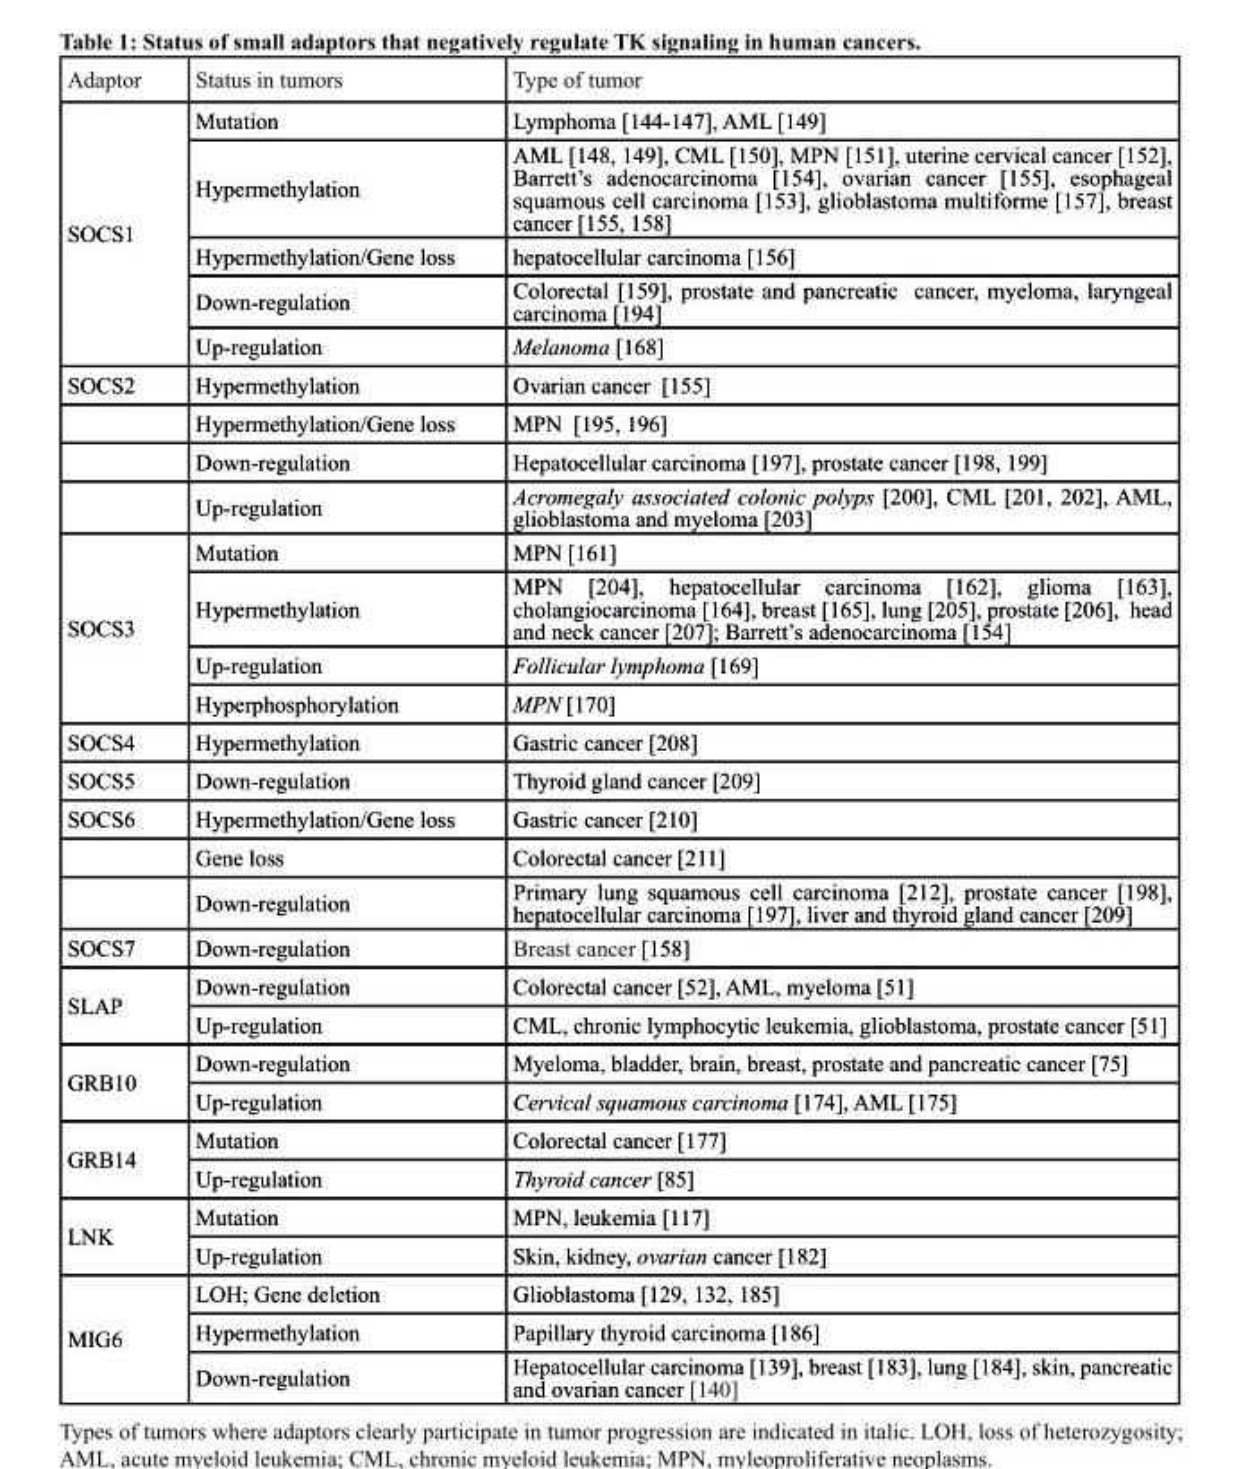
<table><thead><tr><td>Adaptor</td><td>Status in tumors</td><td>Type of tumor</td></tr></thead><tbody><tr><td rowspan="5">SOCS1</td><td>Mutation</td><td>Lymphoma [144-147], AML [149]</td></tr><tr><td>Hypermethylation</td><td>AML [148, 149], CML [150], MPN [151], uterine cervical cancer [152], Barrett’s adenocarcinoma [154], ovarian cancer [155], esophageal squamous cell carcinoma [153], glioblastoma multiforme [157], breast cancer [155, 158]</td></tr><tr><td>Hypermethylation/Gene loss</td><td>hepatocellular carcinoma [156]</td></tr><tr><td>Down-regulation</td><td>Colorectal [159], prostate and pancreatic cancer, myeloma, laryngeal carcinoma [194]</td></tr><tr><td>Up-regulation</td><td>Melanoma [168]</td></tr><tr><td rowspan="4">SOCS2</td><td>Hypermethylation</td><td>Ovarian cancer [155]</td></tr><tr><td>Hypermethylation/Gene loss</td><td>MPN [195, 196]</td></tr><tr><td>Down-regulation</td><td>Hepatocellular carcinoma [197], prostate cancer [198, 199]</td></tr><tr><td>Up-regulation</td><td>Acromegaly associated colonic polyps [200], CML [201, 202], AML, glioblastoma and myeloma [203]</td></tr><tr><td rowspan="4">SOCS3</td><td>Mutation</td><td>MPN [161]</td></tr><tr><td>Hypermethylation</td><td>MPN [204], hepatocellular carcinoma [162], glioma [163], cholangiocarcinoma [164], breast [165], lung [205], prostate [206], head and neck cancer [207]; Barrett’s adenocarcinoma [154]</td></tr><tr><td>Up-regulation</td><td>Follicular lymphoma [169]</td></tr><tr><td>Hyperphosphorylation</td><td>MPN [170]</td></tr><tr><td>SOCS4</td><td>Hypermethylation</td><td>Gastric cancer [208]</td></tr><tr><td>SOCS5</td><td>Down-regulation</td><td>Thyroid gland cancer [209]</td></tr><tr><td rowspan="3">SOCS6</td><td>Hypermethylation/Gene loss</td><td>Gastric cancer [210]</td></tr><tr><td>Gene loss</td><td>Colorectal cancer [211]</td></tr><tr><td>Down-regulation</td><td>Primary lung squamous cell carcinoma [212], prostate cancer [198], hepatocellular carcinoma [197], liver and thyroid gland cancer [209]</td></tr><tr><td>SOCS7</td><td>Down-regulation</td><td>Breast cancer [158]</td></tr><tr><td rowspan="2">SLAP</td><td>Down-regulation</td><td>Colorectal cancer [52], AML, myeloma [51]</td></tr><tr><td>Up-regulation</td><td>CML, chronic lymphocytic leukemia, glioblastoma, prostate cancer [51]</td></tr><tr><td rowspan="2">GRB10</td><td>Down-regulation</td><td>Myeloma, bladder, brain, breast, prostate and pancreatic cancer [75]</td></tr><tr><td>Up-regulation</td><td>Cervical squamous carcinoma [174], AML [175]</td></tr><tr><td rowspan="2">GRB14</td><td>Mutation</td><td>Colorectal cancer [177]</td></tr><tr><td>Up-regulation</td><td>Thyroid cancer [85]</td></tr><tr><td rowspan="2">LNK</td><td>Mutation</td><td>MPN, leukemia [117]</td></tr><tr><td>Up-regulation</td><td>Skin, kidney, ovarian cancer [182]</td></tr><tr><td rowspan="3">MIG6</td><td>LOH; Gene deletion</td><td>Glioblastoma [129, 132, 185]</td></tr><tr><td>Hypermethylation</td><td>Papillary thyroid carcinoma [186]</td></tr><tr><td>Down-regulation</td><td>Hepatocellular carcinoma [139], breast [183], lung [184], skin, pancreatic and ovarian cancer [140]</td></tr></tbody></table>